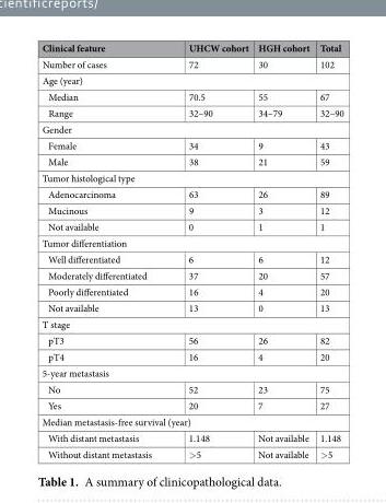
<table><thead><tr><td>Clinical feature</td><td>UHCW cohort</td><td>HGH cohort</td><td>Total</td></tr></thead><tbody><tr><td>Number of cases</td><td>72</td><td>30</td><td>102</td></tr><tr><td colspan="4">Age (year)</td></tr><tr><td>Median</td><td>70.5</td><td>55</td><td>67</td></tr><tr><td>Range</td><td>32–90</td><td>34–79</td><td>32–90</td></tr><tr><td colspan="4">Gender</td></tr><tr><td>Female</td><td>34</td><td>9</td><td>43</td></tr><tr><td>Male</td><td>38</td><td>21</td><td>59</td></tr><tr><td colspan="4">Tumor histological type</td></tr><tr><td>Adenocarcinoma</td><td>63</td><td>26</td><td>89</td></tr><tr><td>Mucinous</td><td>9</td><td>3</td><td>12</td></tr><tr><td>Not available</td><td>0</td><td>1</td><td>1</td></tr><tr><td colspan="4">Tumor differentiation</td></tr><tr><td>Well differentiated</td><td>6</td><td>6</td><td>12</td></tr><tr><td>Moderately differentiated</td><td>37</td><td>20</td><td>57</td></tr><tr><td>Poorly differentiated</td><td>16</td><td>4</td><td>20</td></tr><tr><td>Not available</td><td>13</td><td>0</td><td>13</td></tr><tr><td colspan="4">T stage</td></tr><tr><td>pT3</td><td>56</td><td>26</td><td>82</td></tr><tr><td>pT4</td><td>16</td><td>4</td><td>20</td></tr><tr><td colspan="4">5-year metastasis</td></tr><tr><td>No</td><td>52</td><td>23</td><td>75</td></tr><tr><td>Yes</td><td>20</td><td>7</td><td>27</td></tr><tr><td colspan="4">Median metastasis-free survival (year)</td></tr><tr><td>With distant metastasis</td><td>1.148</td><td>Not available</td><td>1.148</td></tr><tr><td>Without distant metastasis</td><td>&gt;5</td><td>Not available</td><td>&gt;5</td></tr></tbody></table>